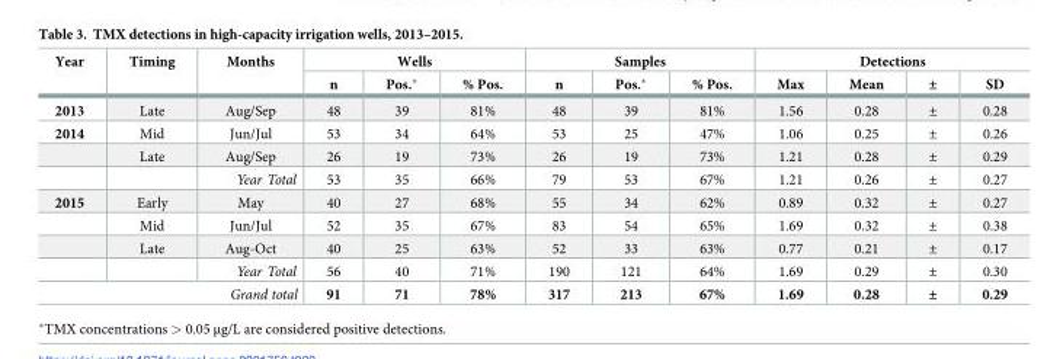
<table><thead><tr><td rowspan="2">Year</td><td rowspan="2">Timing</td><td rowspan="2">Months</td><td colspan="3">Wells</td><td colspan="3">Samples</td><td colspan="4">Detections</td></tr><tr><td>n</td><td>Pos.*</td><td>% Pos.</td><td>n</td><td>Pos.*</td><td>% Pos.</td><td>Max</td><td>Mean</td><td>±</td><td>SD</td></tr></thead><tbody><tr><td>2013</td><td>Late</td><td>Aug/Sep</td><td>48</td><td>39</td><td>81%</td><td>48</td><td>39</td><td>81%</td><td>1.56</td><td>0.28</td><td>±</td><td>0.28</td></tr><tr><td rowspan="3">2014</td><td>Mid</td><td>Jun/Jul</td><td>53</td><td>34</td><td>64%</td><td>53</td><td>25</td><td>47%</td><td>1.06</td><td>0.25</td><td>±</td><td>0.26</td></tr><tr><td>Late</td><td>Aug/Sep</td><td>26</td><td>19</td><td>73%</td><td>26</td><td>19</td><td>73%</td><td>1.21</td><td>0.28</td><td>±</td><td>0.29</td></tr><tr><td></td><td>Year Total</td><td>53</td><td>35</td><td>66%</td><td>79</td><td>53</td><td>67%</td><td>1.21</td><td>0.26</td><td>±</td><td>0.27</td></tr><tr><td rowspan="4">2015</td><td>Early</td><td>May</td><td>40</td><td>27</td><td>68%</td><td>55</td><td>34</td><td>62%</td><td>0.89</td><td>0.32</td><td>±</td><td>0.27</td></tr><tr><td>Mid</td><td>Jun/Jul</td><td>52</td><td>35</td><td>67%</td><td>83</td><td>54</td><td>65%</td><td>1.69</td><td>0.32</td><td>±</td><td>0.38</td></tr><tr><td>Late</td><td>Aug-Oct</td><td>40</td><td>25</td><td>63%</td><td>52</td><td>33</td><td>63%</td><td>0.77</td><td>0.21</td><td>±</td><td>0.17</td></tr><tr><td></td><td>Year Total</td><td>56</td><td>40</td><td>71%</td><td>190</td><td>121</td><td>64%</td><td>1.69</td><td>0.29</td><td>±</td><td>0.30</td></tr><tr><td colspan="3">Grand total</td><td>91</td><td>71</td><td>78%</td><td>317</td><td>213</td><td>67%</td><td>1.69</td><td>0.28</td><td>±</td><td>0.29</td></tr></tbody></table>